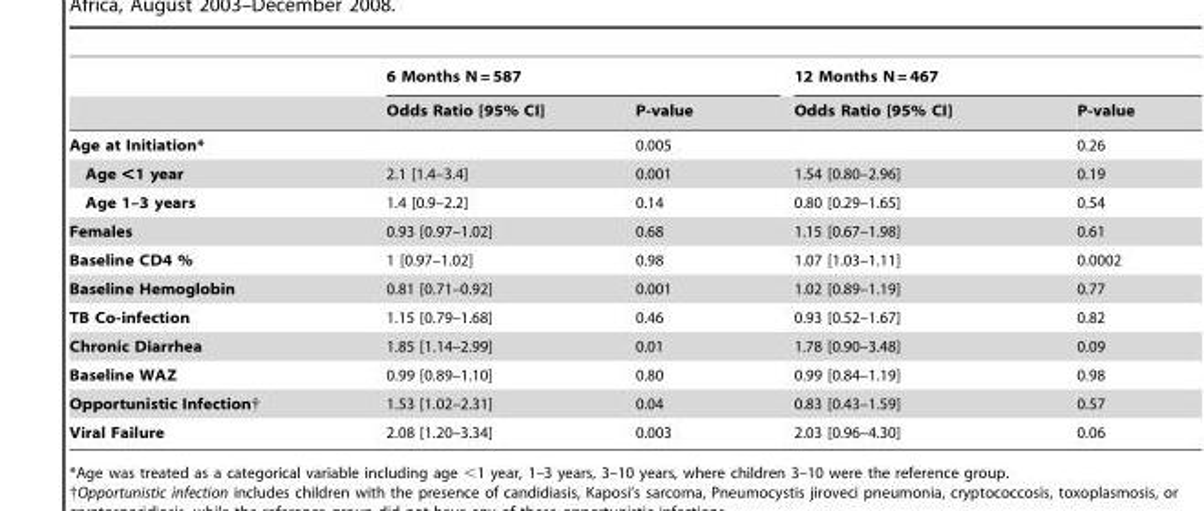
<table><thead><tr><td rowspan="2"></td><td colspan="2">6 Months N = 587</td><td colspan="2">12 Months N = 467</td></tr><tr><td>Odds Ratio [95% CI]</td><td>P-value</td><td>Odds Ratio [95% CI]</td><td>P-value</td></tr></thead><tbody><tr><td>Age at Initiation*</td><td></td><td>0.005</td><td></td><td>0.26</td></tr><tr><td>Age &lt;1 year</td><td>2.1 [1.4–3.4]</td><td>0.001</td><td>1.54 [0.80–2.96]</td><td>0.19</td></tr><tr><td>Age 1–3 years</td><td>1.4 [0.9–2.2]</td><td>0.14</td><td>0.80 [0.29–1.65]</td><td>0.54</td></tr><tr><td>Females</td><td>0.93 [0.97–1.02]</td><td>0.68</td><td>1.15 [0.67–1.98]</td><td>0.61</td></tr><tr><td>Baseline CD4 %</td><td>1 [0.97–1.02]</td><td>0.98</td><td>1.07 [1.03–1.11]</td><td>0.0002</td></tr><tr><td>Baseline Hemoglobin</td><td>0.81 [0.71–0.92]</td><td>0.001</td><td>1.02 [0.89–1.19]</td><td>0.77</td></tr><tr><td>TB Co-infection</td><td>1.15 [0.79–1.68]</td><td>0.46</td><td>0.93 [0.52–1.67]</td><td>0.82</td></tr><tr><td>Chronic Diarrhea</td><td>1.85 [1.14–2.99]</td><td>0.01</td><td>1.78 [0.90–3.48]</td><td>0.09</td></tr><tr><td>Baseline WAZ</td><td>0.99 [0.89–1.10]</td><td>0.80</td><td>0.99 [0.84–1.19]</td><td>0.98</td></tr><tr><td>Opportunistic Infection†</td><td>1.53 [1.02–2.31]</td><td>0.04</td><td>0.83 [0.43–1.59]</td><td>0.57</td></tr><tr><td>Viral Failure</td><td>2.08 [1.20–3.34]</td><td>0.003</td><td>2.03 [0.96–4.30]</td><td>0.06</td></tr></tbody></table>